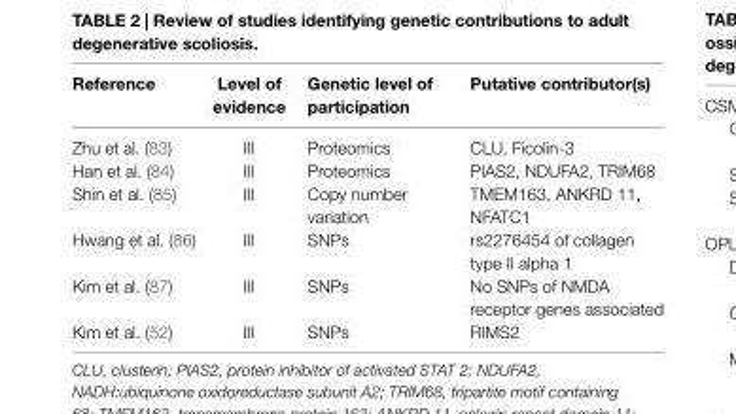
<table><thead><tr><td>Reference</td><td>Level of evidence</td><td>Genetic level of participation</td><td>Putative contributor(s)</td></tr></thead><tbody><tr><td>Zhu et al. (83)</td><td>III</td><td>Proteomics</td><td>CLU, Ficolin-3</td></tr><tr><td>Han et al. (84)</td><td>III</td><td>Proteomics</td><td>PIAS2, NDUFA2, TRIM68</td></tr><tr><td>Shin et al. (85)</td><td>III</td><td>Copy number variation</td><td>TMEM163, ANKRD 11, NFATC1</td></tr><tr><td>Hwang et al. (86)</td><td>III</td><td>SNPs</td><td>rs2276454 of collagen type II alpha 1</td></tr><tr><td>Kim et al. (87)</td><td>III</td><td>SNPs</td><td>No SNPs of NMDA receptor genes associated</td></tr><tr><td>Kim et al. (52)</td><td>III</td><td>SNPs</td><td>RIMS2</td></tr></tbody></table>